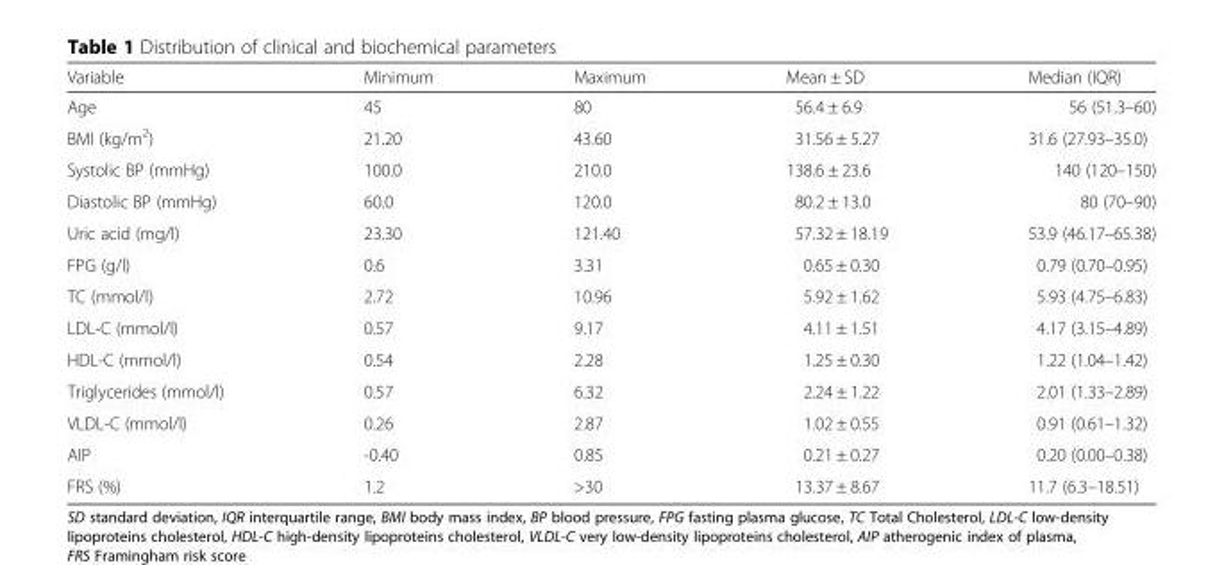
<table><thead><tr><td>Variable</td><td>Minimum</td><td>Maximum</td><td>Mean ± SD</td><td>Median (IQR)</td></tr></thead><tbody><tr><td>Age</td><td>45</td><td>80</td><td>56.4 ± 6.9</td><td>56 (51.3–60)</td></tr><tr><td>BMI (kg/m<sup>2</sup>)</td><td>21.20</td><td>43.60</td><td>31.56 ± 5.27</td><td>31.6 (27.93–35.0)</td></tr><tr><td>Systolic BP (mmHg)</td><td>100.0</td><td>210.0</td><td>138.6 ± 23.6</td><td>140 (120–150)</td></tr><tr><td>Diastolic BP (mmHg)</td><td>60.0</td><td>120.0</td><td>80.2 ± 13.0</td><td>80 (70–90)</td></tr><tr><td>Uric acid (mg/l)</td><td>23.30</td><td>121.40</td><td>57.32 ± 18.19</td><td>53.9 (46.17–65.38)</td></tr><tr><td>FPG (g/l)</td><td>0.6</td><td>3.31</td><td>0.65 ± 0.30</td><td>0.79 (0.70–0.95)</td></tr><tr><td>TC (mmol/l)</td><td>2.72</td><td>10.96</td><td>5.92 ± 1.62</td><td>5.93 (4.75–6.83)</td></tr><tr><td>LDL-C (mmol/l)</td><td>0.57</td><td>9.17</td><td>4.11 ± 1.51</td><td>4.17 (3.15–4.89)</td></tr><tr><td>HDL-C (mmol/l)</td><td>0.54</td><td>2.28</td><td>1.25 ± 0.30</td><td>1.22 (1.04–1.42)</td></tr><tr><td>Triglycerides (mmol/l)</td><td>0.57</td><td>6.32</td><td>2.24 ± 1.22</td><td>2.01 (1.33–2.89)</td></tr><tr><td>VLDL-C (mmol/l)</td><td>0.26</td><td>2.87</td><td>1.02 ± 0.55</td><td>0.91 (0.61–1.32)</td></tr><tr><td>AIP</td><td>-0.40</td><td>0.85</td><td>0.21 ± 0.27</td><td>0.20 (0.00–0.38)</td></tr><tr><td>FRS (%)</td><td>1.2</td><td>&gt;30</td><td>13.37 ± 8.67</td><td>11.7 (6.3–18.51)</td></tr></tbody></table>